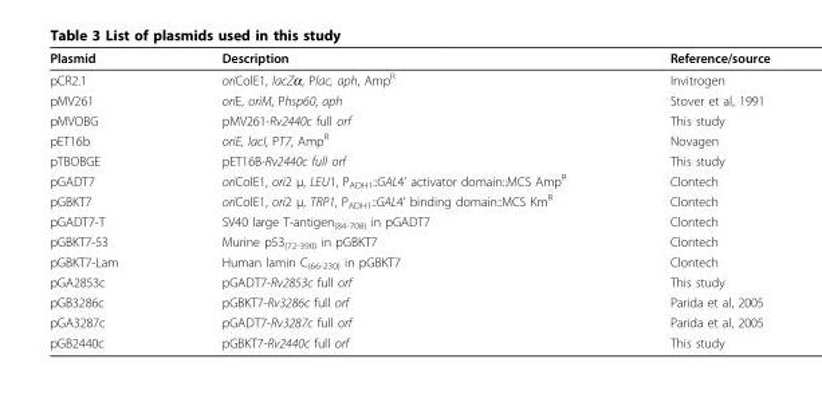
<table><thead><tr><td>Plasmid</td><td>Description</td><td>Reference/source</td></tr></thead><tbody><tr><td>pCR2.1</td><td>oriColE1, lacZα, Plac, aph, Amp<sup>R</sup></td><td>Invitrogen</td></tr><tr><td>pMV261</td><td>oriE, oriM, Phsp60, aph</td><td>Stover et al, 1991</td></tr><tr><td>pMVOBG</td><td>pMV261-Rv2440c full orf</td><td>This study</td></tr><tr><td>pET16b</td><td>oriE, lacI, PT7, Amp<sup>R</sup></td><td>Novagen</td></tr><tr><td>pTBOBGE</td><td>pET16B-Rv2440c full orf</td><td>This study</td></tr><tr><td>pGADT7</td><td>oriColE1, ori2 μ, LEU1, P<sub>ADH1</sub>::GAL4’ activator domain::MCS Amp<sup>R</sup></td><td>Clontech</td></tr><tr><td>pGBKT7</td><td>oriColE1, ori2 μ, TRP1, P<sub>ADH1</sub>::GAL4’ binding domain::MCS Km<sup>R</sup></td><td>Clontech</td></tr><tr><td>pGADT7-T</td><td>SV40 large T-antigen<sub>(84-708)</sub> in pGADT7</td><td>Clontech</td></tr><tr><td>pGBKT7-53</td><td>Murine p53<sub>(72-390)</sub> in pGBKT7</td><td>Clontech</td></tr><tr><td>pGBKT7-Lam</td><td>Human lamin C<sub>(66-230)</sub> in pGBKT7</td><td>Clontech</td></tr><tr><td>pGA2853c</td><td>pGADT7-Rv2853c full orf</td><td>This study</td></tr><tr><td>pGB3286c</td><td>pGBKT7-Rv3286c full orf</td><td>Parida et al, 2005</td></tr><tr><td>pGA3287c</td><td>pGADT7-Rv3287c full orf</td><td>Parida et al, 2005</td></tr><tr><td>pGB2440c</td><td>pGBKT7-Rv2440c full orf</td><td>This study</td></tr></tbody></table>